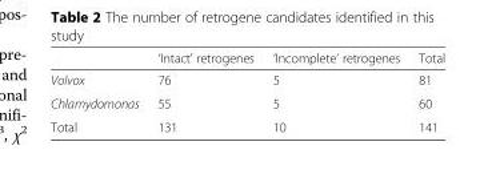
<table><thead><tr><td></td><td>‘Intact’ retrogenes</td><td>‘Incomplete’ retrogenes</td><td>Total</td></tr></thead><tbody><tr><td>Volvox</td><td>76</td><td>5</td><td>81</td></tr><tr><td>Chlamydomonas</td><td>55</td><td>5</td><td>60</td></tr><tr><td>Total</td><td>131</td><td>10</td><td>141</td></tr></tbody></table>